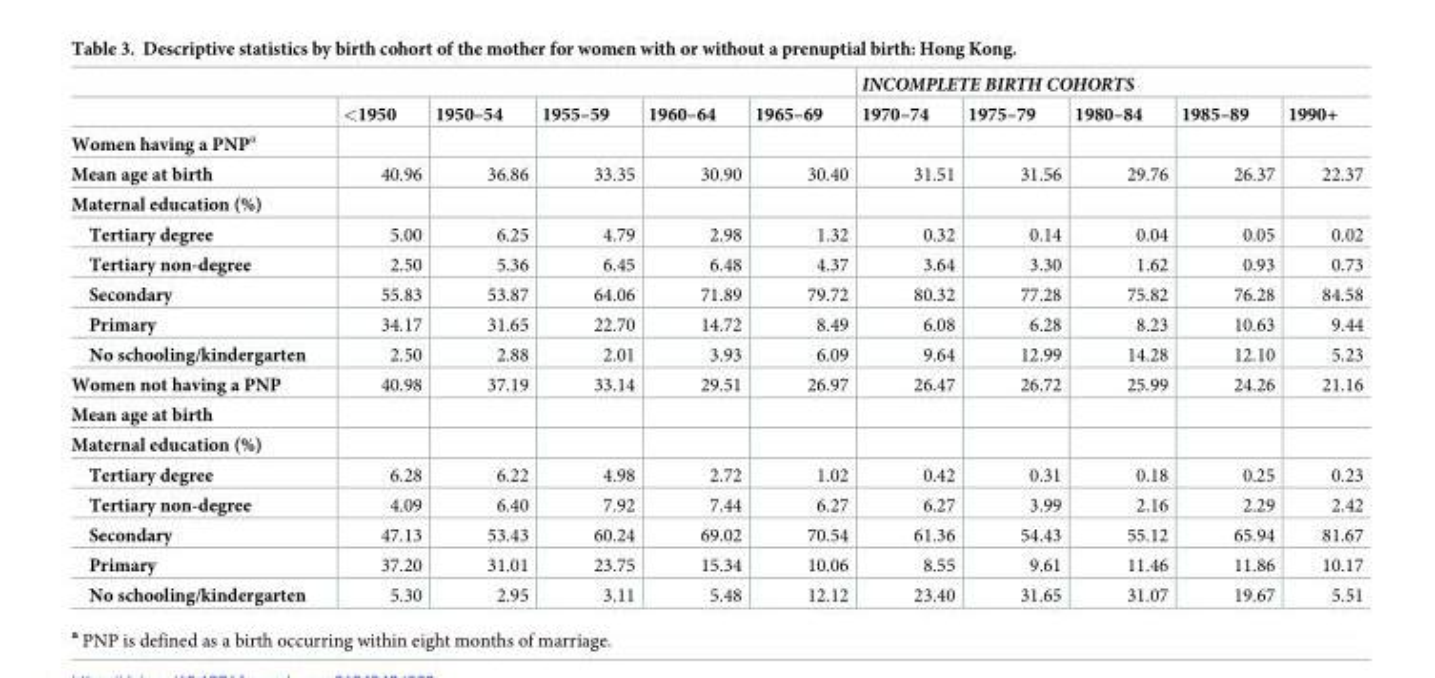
<table><thead><tr><td rowspan="2"></td><td rowspan="2">&lt;1950</td><td rowspan="2">1950–54</td><td rowspan="2">1955–59</td><td rowspan="2">1960–64</td><td rowspan="2">1965–69</td><td colspan="5">INCOMPLETE BIRTH COHORTS</td></tr><tr><td>1970–74</td><td>1975–79</td><td>1980–84</td><td>1985–89</td><td>1990+</td></tr></thead><tbody><tr><td colspan="11">Women having a PNP<sup>a</sup></td></tr><tr><td>Mean age at birth</td><td>40.96</td><td>36.86</td><td>33.35</td><td>30.90</td><td>30.40</td><td>31.51</td><td>31.56</td><td>29.76</td><td>26.37</td><td>22.37</td></tr><tr><td colspan="11">Maternal education (%)</td></tr><tr><td>Tertiary degree</td><td>5.00</td><td>6.25</td><td>4.79</td><td>2.98</td><td>1.32</td><td>0.32</td><td>0.14</td><td>0.04</td><td>0.05</td><td>0.02</td></tr><tr><td>Tertiary non-degree</td><td>2.50</td><td>5.36</td><td>6.45</td><td>6.48</td><td>4.37</td><td>3.64</td><td>3.30</td><td>1.62</td><td>0.93</td><td>0.73</td></tr><tr><td>Secondary</td><td>55.83</td><td>53.87</td><td>64.06</td><td>71.89</td><td>79.72</td><td>80.32</td><td>77.28</td><td>75.82</td><td>76.28</td><td>84.58</td></tr><tr><td>Primary</td><td>34.17</td><td>31.65</td><td>22.70</td><td>14.72</td><td>8.49</td><td>6.08</td><td>6.28</td><td>8.23</td><td>10.63</td><td>9.44</td></tr><tr><td>No schooling/kindergarten</td><td>2.50</td><td>2.88</td><td>2.01</td><td>3.93</td><td>6.09</td><td>9.64</td><td>12.99</td><td>14.28</td><td>12.10</td><td>5.23</td></tr><tr><td>Women not having a PNP</td><td>40.98</td><td>37.19</td><td>33.14</td><td>29.51</td><td>26.97</td><td>26.47</td><td>26.72</td><td>25.99</td><td>24.26</td><td>21.16</td></tr><tr><td colspan="11">Mean age at birth</td></tr><tr><td colspan="11">Maternal education (%)</td></tr><tr><td>Tertiary degree</td><td>6.28</td><td>6.22</td><td>4.98</td><td>2.72</td><td>1.02</td><td>0.42</td><td>0.31</td><td>0.18</td><td>0.25</td><td>0.23</td></tr><tr><td>Tertiary non-degree</td><td>4.09</td><td>6.40</td><td>7.92</td><td>7.44</td><td>6.27</td><td>6.27</td><td>3.99</td><td>2.16</td><td>2.29</td><td>2.42</td></tr><tr><td>Secondary</td><td>47.13</td><td>53.43</td><td>60.24</td><td>69.02</td><td>70.54</td><td>61.36</td><td>54.43</td><td>55.12</td><td>65.94</td><td>81.67</td></tr><tr><td>Primary</td><td>37.20</td><td>31.01</td><td>23.75</td><td>15.34</td><td>10.06</td><td>8.55</td><td>9.61</td><td>11.46</td><td>11.86</td><td>10.17</td></tr><tr><td>No schooling/kindergarten</td><td>5.30</td><td>2.95</td><td>3.11</td><td>5.48</td><td>12.12</td><td>23.40</td><td>31.65</td><td>31.07</td><td>19.67</td><td>5.51</td></tr></tbody></table>